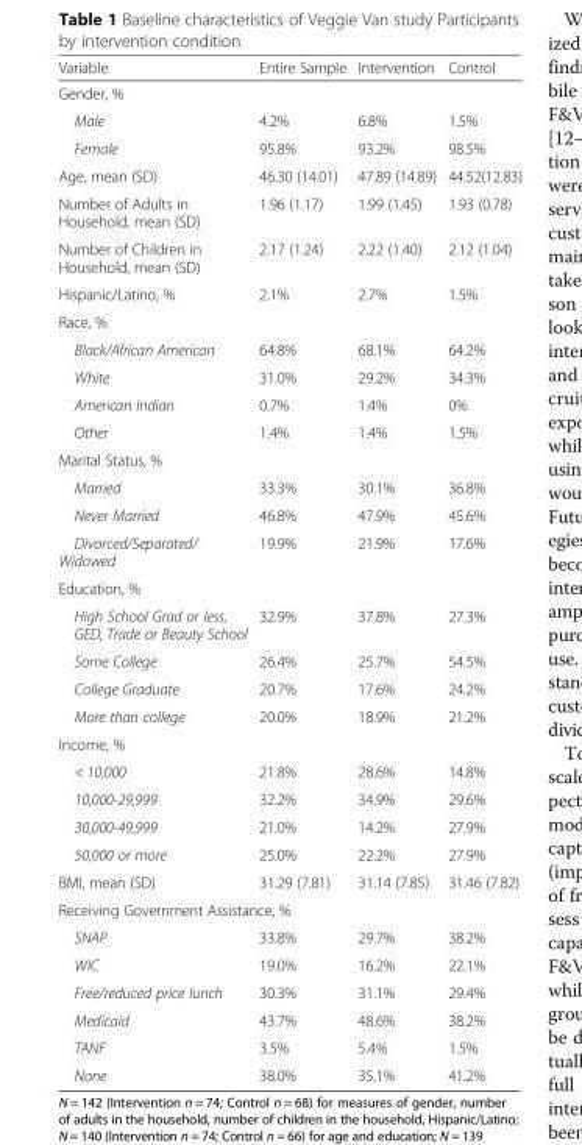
<table><thead><tr><td>Variable</td><td>Entire Sample</td><td>Intervention</td><td>Control</td></tr></thead><tbody><tr><td colspan="4">Gender, %</td></tr><tr><td>Male</td><td>4.2%</td><td>6.8%</td><td>1.5%</td></tr><tr><td>Female</td><td>95.8%</td><td>93.2%</td><td>98.5%</td></tr><tr><td>Age, mean (SD)</td><td>46.30 (14.01)</td><td>47.89 (14.89)</td><td>44.52(12.83)</td></tr><tr><td>Number of Adults in Household, mean (SD)</td><td>1.96 (1.17)</td><td>1.99 (1.45)</td><td>1.93 (0.78)</td></tr><tr><td>Number of Children in Household, mean (SD)</td><td>2.17 (1.24)</td><td>2.22 (1.40)</td><td>2.12 (1.04)</td></tr><tr><td>Hispanic/Latino, %</td><td>2.1%</td><td>2.7%</td><td>1.5%</td></tr><tr><td colspan="4">Race, %</td></tr><tr><td>Black/African American</td><td>64.8%</td><td>68.1%</td><td>64.2%</td></tr><tr><td>White</td><td>31.0%</td><td>29.2%</td><td>34.3%</td></tr><tr><td>American Indian</td><td>0.7%</td><td>1.4%</td><td>0%</td></tr><tr><td>Other</td><td>1.4%</td><td>1.4%</td><td>1.5%</td></tr><tr><td colspan="4">Marital Status, %</td></tr><tr><td>Married</td><td>33.3%</td><td>30.1%</td><td>36.8%</td></tr><tr><td>Never Married</td><td>46.8%</td><td>47.9%</td><td>45.6%</td></tr><tr><td>Divorced/Separated/ Widowed</td><td>19.9%</td><td>21.9%</td><td>17.6%</td></tr><tr><td colspan="4">Education, %</td></tr><tr><td>High School Grad or less, GED, Trade or Beauty School</td><td>32.9%</td><td>37.8%</td><td>27.3%</td></tr><tr><td>Some College</td><td>26.4%</td><td>25.7%</td><td>54.5%</td></tr><tr><td>College Graduate</td><td>20.7%</td><td>17.6%</td><td>24.2%</td></tr><tr><td>More than college</td><td>20.0%</td><td>18.9%</td><td>21.2%</td></tr><tr><td colspan="4">Income, %</td></tr><tr><td>&lt; 10,000</td><td>21.8%</td><td>28.6%</td><td>14.8%</td></tr><tr><td>10,000-29,999</td><td>32.2%</td><td>34.9%</td><td>29.6%</td></tr><tr><td>30,000-49,999</td><td>21.0%</td><td>14.2%</td><td>27.9%</td></tr><tr><td>50,000 or more</td><td>25.0%</td><td>22.2%</td><td>27.9%</td></tr><tr><td>BMI, mean (SD)</td><td>31.29 (7.81)</td><td>31.14 (7.85)</td><td>31.46 (7.82)</td></tr><tr><td colspan="4">Receiving Government Assistance, %</td></tr><tr><td>SNAP</td><td>33.8%</td><td>29.7%</td><td>38.2%</td></tr><tr><td>WIC</td><td>19.0%</td><td>16.2%</td><td>22.1%</td></tr><tr><td>Free/reduced price lunch</td><td>30.3%</td><td>31.1%</td><td>29.4%</td></tr><tr><td>Medicaid</td><td>43.7%</td><td>48.6%</td><td>38.2%</td></tr><tr><td>TANF</td><td>3.5%</td><td>5.4%</td><td>1.5%</td></tr><tr><td>None</td><td>38.0%</td><td>35.1%</td><td>41.2%</td></tr></tbody></table>